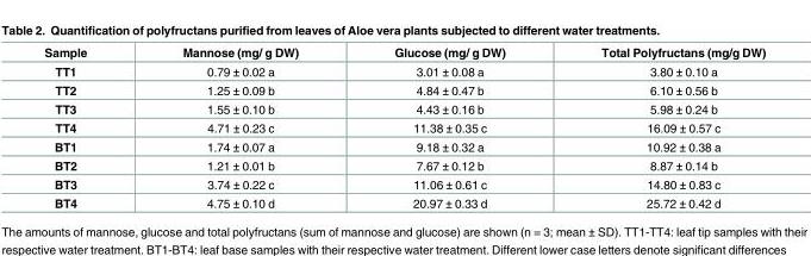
<table><thead><tr><td>Sample</td><td>Mannose (mg/ g DW)</td><td>Glucose (mg/ g DW)</td><td>Total Polyfructans (mg/g DW)</td></tr></thead><tbody><tr><td>TT1</td><td>0.79 ± 0.02 a</td><td>3.01 ± 0.08 a</td><td>3.80 ± 0.10 a</td></tr><tr><td>TT2</td><td>1.25 ± 0.09 b</td><td>4.84 ± 0.47 b</td><td>6.10 ± 0.56 b</td></tr><tr><td>TT3</td><td>1.55 ± 0.10 b</td><td>4.43 ± 0.16 b</td><td>5.98 ± 0.24 b</td></tr><tr><td>TT4</td><td>4.71 ± 0.23 c</td><td>11.38 ± 0.35 c</td><td>16.09 ± 0.57 c</td></tr><tr><td>BT1</td><td>1.74 ± 0.07 a</td><td>9.18 ± 0.32 a</td><td>10.92 ± 0.38 a</td></tr><tr><td>BT2</td><td>1.21 ± 0.01 b</td><td>7.67 ± 0.12 b</td><td>8.87 ± 0.14 b</td></tr><tr><td>BT3</td><td>3.74 ± 0.22 c</td><td>11.06 ± 0.61 c</td><td>14.80 ± 0.83 c</td></tr><tr><td>BT4</td><td>4.75 ± 0.10 d</td><td>20.97 ± 0.33 d</td><td>25.72 ± 0.42 d</td></tr></tbody></table>